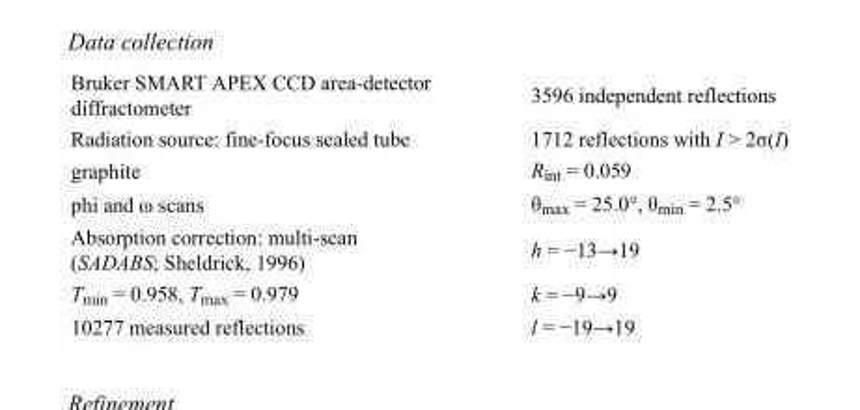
<table><tbody><tr><td>Bruker SMART APEX CCD area-detector diffractometer</td><td>3596 independent reflections</td></tr><tr><td>Radiation source: fine-focus sealed tube</td><td>1712 reflections with I &gt; 2σ(I)</td></tr><tr><td>graphite</td><td>R<sub>int</sub> = 0.059</td></tr><tr><td>phi and ω scans</td><td>θ<sub>max</sub> = 25.0°, θ<sub>min</sub> = 2.5°</td></tr><tr><td>Absorption correction: multi-scan (SADABS; Sheldrick, 1996)</td><td>h = −13→19</td></tr><tr><td>T<sub>min</sub> = 0.958, T<sub>max</sub> = 0.979</td><td>k = −9→9</td></tr><tr><td>10277 measured reflections</td><td>l = −19→19</td></tr></tbody></table>